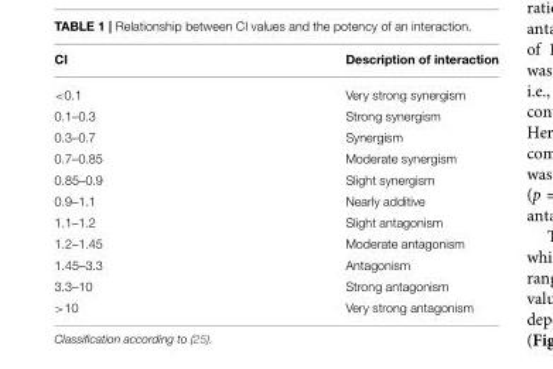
<table><thead><tr><td>CI</td><td>Description of interaction</td></tr></thead><tbody><tr><td>&lt;0.1</td><td>Very strong synergism</td></tr><tr><td>0.1–0.3</td><td>Strong synergism</td></tr><tr><td>0.3–0.7</td><td>Synergism</td></tr><tr><td>0.7–0.85</td><td>Moderate synergism</td></tr><tr><td>0.85–0.9</td><td>Slight synergism</td></tr><tr><td>0.9–1.1</td><td>Nearly additive</td></tr><tr><td>1.1–1.2</td><td>Slight antagonism</td></tr><tr><td>1.2–1.45</td><td>Moderate antagonism</td></tr><tr><td>1.45–3.3</td><td>Antagonism</td></tr><tr><td>3.3–10</td><td>Strong antagonism</td></tr><tr><td>&gt;10</td><td>Very strong antagonism</td></tr></tbody></table>